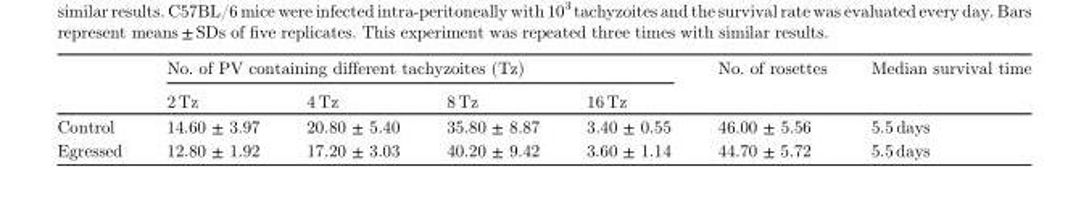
<table><thead><tr><td rowspan="2"></td><td colspan="4">No. of PV containing different tachyzoites (Tz)</td><td rowspan="2">No. of rosettes</td><td rowspan="2">Median survival time</td></tr><tr><td>2 Tz</td><td>4 Tz</td><td>8 Tz</td><td>16 Tz</td></tr></thead><tbody><tr><td>Control</td><td>14.60 ± 3.97</td><td>20.80 ± 5.40</td><td>35.80 ± 8.87</td><td>3.40 ± 0.55</td><td>46.00 ± 5.56</td><td>5.5 days</td></tr><tr><td>Egressed</td><td>12.80 ± 1.92</td><td>17.20 ± 3.03</td><td>40.20 ± 9.42</td><td>3.60 ± 1.14</td><td>44.70 ± 5.72</td><td>5.5 days</td></tr></tbody></table>